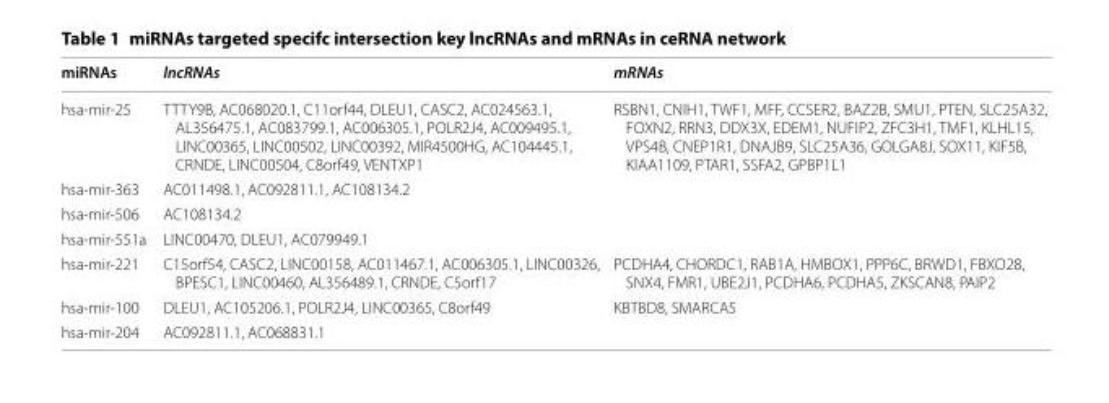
<table><thead><tr><td>miRNAs</td><td>lncRNAs</td><td>mRNAs</td></tr></thead><tbody><tr><td>hsa-mir-25</td><td>TTTY9B, AC068020.1, C11orf44, DLEU1, CASC2, AC024563.1, AL356475.1, AC083799.1, AC006305.1, POLR2J4, AC009495.1, LINC00365, LINC00502, LINC00392, MIR4500HG, AC104445.1, CRNDE, LINC00504, C8orf49, VENTXP1</td><td>RSBN1, CNIH1, TWF1, MFF, CCSER2, BAZ2B, SMU1, PTEN, SLC25A32, FOXN2, RRN3, DDX3X, EDEM1, NUFIP2, ZFC3H1, TMF1, KLHL15, VPS4B, CNEP1R1, DNAJB9, SLC25A36, GOLGA8J, SOX11, KIF5B, KIAA1109, PTAR1, SSFA2, GPBP1L1</td></tr><tr><td>hsa-mir-363</td><td>AC011498.1, AC092811.1, AC108134.2</td><td></td></tr><tr><td>hsa-mir-506</td><td>AC108134.2</td><td></td></tr><tr><td>hsa-mir-551a</td><td>LINC00470, DLEU1, AC079949.1</td><td></td></tr><tr><td>hsa-mir-221</td><td>C15orf54, CASC2, LINC00158, AC011467.1, AC006305.1, LINC00326, BPESC1, LINC00460, AL356489.1, CRNDE, C5orf17</td><td>PCDHA4, CHORDC1, RAB1A, HMBOX1, PPP6C, BRWD1, FBXO28, SNX4, FMR1, UBE2J1, PCDHA6, PCDHA5, ZKSCAN8, PAIP2</td></tr><tr><td>hsa-mir-100</td><td>DLEU1, AC105206.1, POLR2J4, LINC00365, C8orf49</td><td>KBTBD8, SMARCA5</td></tr><tr><td>hsa-mir-204</td><td>AC092811.1, AC068831.1</td><td></td></tr></tbody></table>